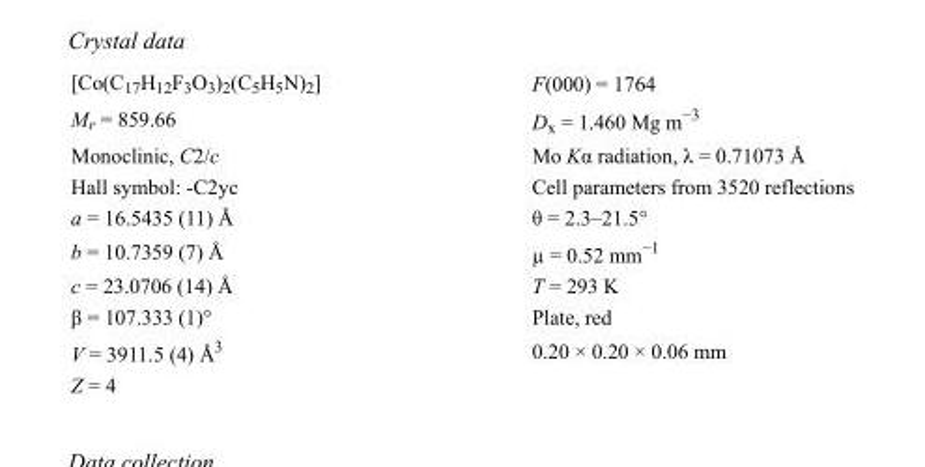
<table><tbody><tr><td>[Co(C<sub>17</sub>H<sub>12</sub>F<sub>3</sub>O<sub>3</sub>)<sub>2</sub>(C<sub>5</sub>H<sub>5</sub>N)<sub>2</sub>]</td><td>F(000) = 1764</td></tr><tr><td>M<sub>r</sub> = 859.66</td><td>D<sub>x</sub> = 1.460 Mg m<sup>−3</sup></td></tr><tr><td>Monoclinic, C2/c</td><td>Mo Kα radiation, λ = 0.71073 Å</td></tr><tr><td>Hall symbol: -C2yc</td><td>Cell parameters from 3520 reflections</td></tr><tr><td>a = 16.5435 (11) Å</td><td>θ = 2.3–21.5°</td></tr><tr><td>b = 10.7359 (7) Å</td><td>µ = 0.52 mm<sup>−1</sup></td></tr><tr><td>c = 23.0706 (14) Å</td><td>T = 293 K</td></tr><tr><td>β = 107.333 (1)°</td><td>Plate, red</td></tr><tr><td>V = 3911.5 (4) Å<sup>3</sup></td><td>0.20 × 0.20 × 0.06 mm</td></tr><tr><td>Z = 4</td><td></td></tr></tbody></table>